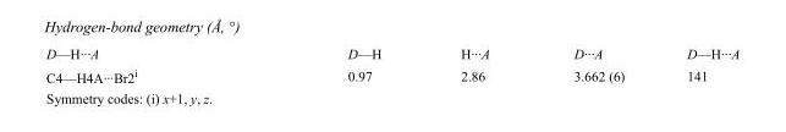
<table><tbody><tr><td>D—H···A</td><td>D—H</td><td>H···A</td><td>D···A</td><td>D—H···A</td></tr><tr><td>C4—H4A···Br2<sup>i</sup></td><td>0.97</td><td>2.86</td><td>3.662 (6)</td><td>141</td></tr></tbody></table>